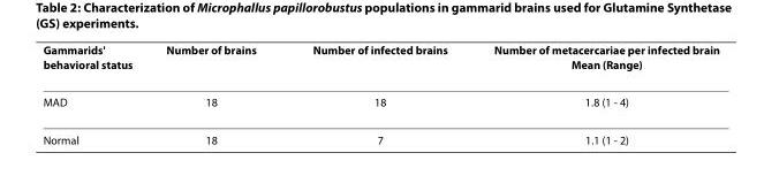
<table><thead><tr><td>Gammarids&#x27; behavioral status</td><td>Number of brains</td><td>Number of infected brains</td><td>Number of metacercariae per infected brain Mean (Range)</td></tr></thead><tbody><tr><td>MAD</td><td>18</td><td>18</td><td>1.8 (1 - 4)</td></tr><tr><td>Normal</td><td>18</td><td>7</td><td>1.1 (1 - 2)</td></tr></tbody></table>